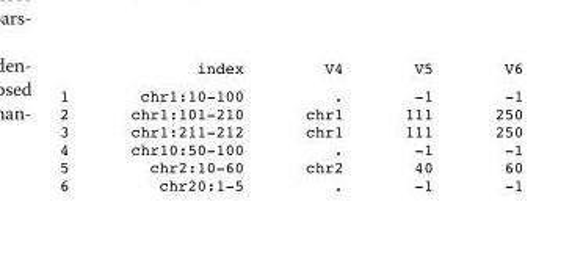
<table><thead><tr><td></td><td>index</td><td>V4</td><td>V5</td><td>V6</td></tr></thead><tbody><tr><td>1 2 3 4 5 6</td><td>chr1:10-100 chr1:101-210 chr1:211-212 chr10:50-100 chr2:10-60 chr20:1-5</td><td>. chr1 chr1 . chr2 .</td><td>-1 111 111 -1 40 -1</td><td>-1 250 250 -1 60 -1</td></tr></tbody></table>